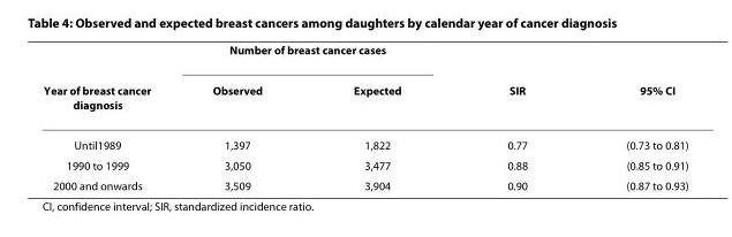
<table><thead><tr><td rowspan="2">Year of breast cancer diagnosis</td><td colspan="2">Number of breast cancer cases</td><td rowspan="2">SIR</td><td rowspan="2">95% CI</td></tr><tr><td>Observed</td><td>Expected</td></tr></thead><tbody><tr><td>Until1989</td><td>1,397</td><td>1,822</td><td>0.77</td><td>(0.73 to 0.81)</td></tr><tr><td>1990 to 1999</td><td>3,050</td><td>3,477</td><td>0.88</td><td>(0.85 to 0.91)</td></tr><tr><td>2000 and onwards</td><td>3,509</td><td>3,904</td><td>0.90</td><td>(0.87 to 0.93)</td></tr></tbody></table>